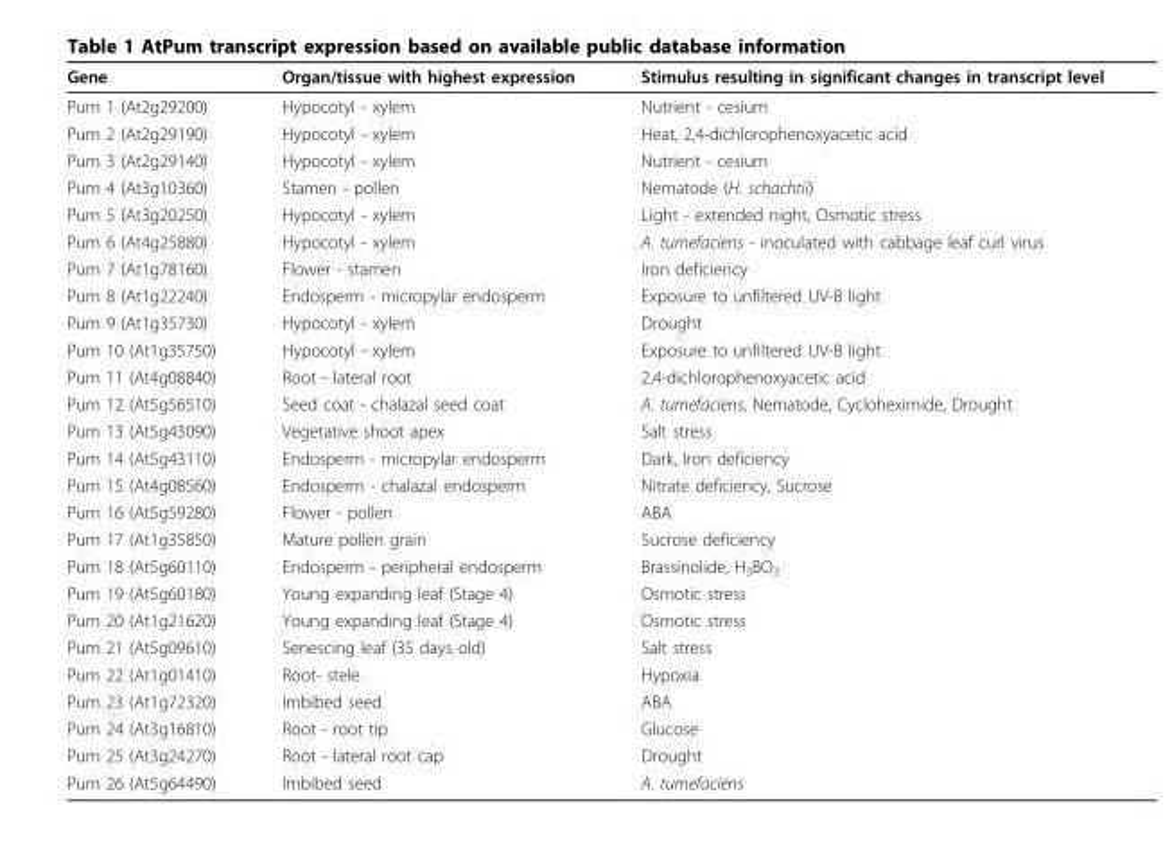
<table><thead><tr><td>Gene</td><td>Organ/tissue with highest expression</td><td>Stimulus resulting in significant changes in transcript level</td></tr></thead><tbody><tr><td>Pum 1 (At2g29200)</td><td>Hypocotyl - xylem</td><td>Nutrient - cesium</td></tr><tr><td>Pum 2 (At2g29190)</td><td>Hypocotyl - xylem</td><td>Heat, 2,4-dichlorophenoxyacetic acid</td></tr><tr><td>Pum 3 (At2g29140)</td><td>Hypocotyl - xylem</td><td>Nutrient - cesium</td></tr><tr><td>Pum 4 (At3g10360)</td><td>Stamen - pollen</td><td>Nematode (H. schachtii)</td></tr><tr><td>Pum 5 (At3g20250)</td><td>Hypocotyl - xylem</td><td>Light - extended night, Osmotic stress</td></tr><tr><td>Pum 6 (At4g25880)</td><td>Hypocotyl - xylem</td><td>A. tumefaciens - inoculated with cabbage leaf curl virus</td></tr><tr><td>Pum 7 (At1g78160)</td><td>Flower - stamen</td><td>Iron deficiency</td></tr><tr><td>Pum 8 (At1g22240)</td><td>Endosperm - micropylar endosperm</td><td>Exposure to unfiltered UV-B light</td></tr><tr><td>Pum 9 (At1g35730)</td><td>Hypocotyl - xylem</td><td>Drought</td></tr><tr><td>Pum 10 (At1g35750)</td><td>Hypocotyl - xylem</td><td>Exposure to unfiltered UV-B light</td></tr><tr><td>Pum 11 (At4g08840)</td><td>Root - lateral root</td><td>2,4-dichlorophenoxyacetic acid</td></tr><tr><td>Pum 12 (At5g56510)</td><td>Seed coat - chalazal seed coat</td><td>A. tumefaciens, Nematode, Cycloheximide, Drought</td></tr><tr><td>Pum 13 (At5g43090)</td><td>Vegetative shoot apex</td><td>Salt stress</td></tr><tr><td>Pum 14 (At5g43110)</td><td>Endosperm - micropylar endosperm</td><td>Dark, Iron deficiency</td></tr><tr><td>Pum 15 (At4g08560)</td><td>Endosperm - chalazal endosperm</td><td>Nitrate deficiency, Sucrose</td></tr><tr><td>Pum 16 (At5g59280)</td><td>Flower - pollen</td><td>ABA</td></tr><tr><td>Pum 17 (At1g35850)</td><td>Mature pollen grain</td><td>Sucrose deficiency</td></tr><tr><td>Pum 18 (At5g60110)</td><td>Endosperm - peripheral endosperm</td><td>Brassinolide, H<sub>3</sub>BO<sub>3</sub></td></tr><tr><td>Pum 19 (At5g60180)</td><td>Young expanding leaf (Stage 4)</td><td>Osmotic stress</td></tr><tr><td>Pum 20 (At1g21620)</td><td>Young expanding leaf (Stage 4)</td><td>Osmotic stress</td></tr><tr><td>Pum 21 (At5g09610)</td><td>Senescing leaf (35 days old)</td><td>Salt stress</td></tr><tr><td>Pum 22 (At1g01410)</td><td>Root- stele</td><td>Hypoxia</td></tr><tr><td>Pum 23 (At1g72320)</td><td>Imbibed seed</td><td>ABA</td></tr><tr><td>Pum 24 (At3g16810)</td><td>Root - root tip</td><td>Glucose</td></tr><tr><td>Pum 25 (At3g24270)</td><td>Root - lateral root cap</td><td>Drought</td></tr><tr><td>Pum 26 (At5g64490)</td><td>Imbibed seed</td><td>A. tumefaciens</td></tr></tbody></table>